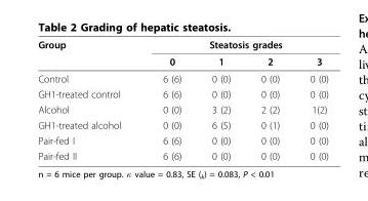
<table><thead><tr><td rowspan="2">Group</td><td colspan="4">Steatosis grades</td></tr><tr><td>0</td><td>1</td><td>2</td><td>3</td></tr></thead><tbody><tr><td>Control</td><td>6 (6)</td><td>0 (0)</td><td>0 (0)</td><td>0 (0)</td></tr><tr><td>GH1-treated control</td><td>6 (6)</td><td>0 (0)</td><td>0 (0)</td><td>0 (0)</td></tr><tr><td>Alcohol</td><td>0 (0)</td><td>3 (2)</td><td>2 (2)</td><td>1(2)</td></tr><tr><td>GH1-treated alcohol</td><td>0 (0)</td><td>6 (5)</td><td>0 (1)</td><td>0 (0)</td></tr><tr><td>Pair-fed I</td><td>6 (6)</td><td>0 (0)</td><td>0 (0)</td><td>0 (0)</td></tr><tr><td>Pair-fed II</td><td>6 (6)</td><td>0 (0)</td><td>0 (0)</td><td>0 (0)</td></tr></tbody></table>